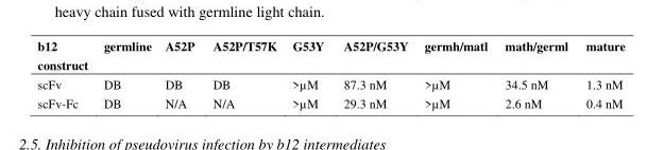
<table><thead><tr><td>b12 construct</td><td>germline</td><td>A52P</td><td>A52P/T57K</td><td>G53Y</td><td>A52P/G53Y</td><td>germh/matl</td><td>math/germl</td><td>mature</td></tr></thead><tbody><tr><td>scFv</td><td>DB</td><td>DB</td><td>DB</td><td>&gt;µM</td><td>87.3 nM</td><td>&gt;µM</td><td>34.5 nM</td><td>1.3 nM</td></tr><tr><td>scFv-Fc</td><td>DB</td><td>N/A</td><td>N/A</td><td>&gt;µM</td><td>29.3 nM</td><td>&gt;µM</td><td>2.6 nM</td><td>0.4 nM</td></tr></tbody></table>